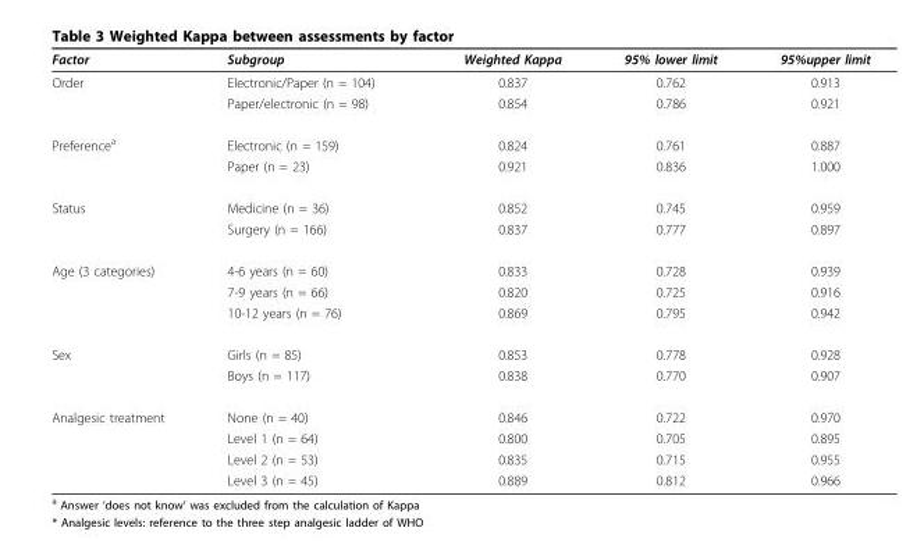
<table><thead><tr><td>Factor</td><td>Subgroup</td><td>Weighted Kappa</td><td>95% lower limit</td><td>95%upper limit</td></tr></thead><tbody><tr><td rowspan="2">Order</td><td>Electronic/Paper (n = 104)</td><td>0.837</td><td>0.762</td><td>0.913</td></tr><tr><td>Paper/electronic (n = 98)</td><td>0.854</td><td>0.786</td><td>0.921</td></tr><tr><td rowspan="2">Preference<sup>a</sup></td><td>Electronic (n = 159)</td><td>0.824</td><td>0.761</td><td>0.887</td></tr><tr><td>Paper (n = 23)</td><td>0.921</td><td>0.836</td><td>1.000</td></tr><tr><td rowspan="2">Status</td><td>Medicine (n = 36)</td><td>0.852</td><td>0.745</td><td>0.959</td></tr><tr><td>Surgery (n = 166)</td><td>0.837</td><td>0.777</td><td>0.897</td></tr><tr><td rowspan="3">Age (3 categories)</td><td>4-6 years (n = 60)</td><td>0.833</td><td>0.728</td><td>0.939</td></tr><tr><td>7-9 years (n = 66)</td><td>0.820</td><td>0.725</td><td>0.916</td></tr><tr><td>10-12 years (n = 76)</td><td>0.869</td><td>0.795</td><td>0.942</td></tr><tr><td rowspan="2">Sex</td><td>Girls (n = 85)</td><td>0.853</td><td>0.778</td><td>0.928</td></tr><tr><td>Boys (n = 117)</td><td>0.838</td><td>0.770</td><td>0.907</td></tr><tr><td rowspan="4">Analgesic treatment</td><td>None (n = 40)</td><td>0.846</td><td>0.722</td><td>0.970</td></tr><tr><td>Level 1 (n = 64)</td><td>0.800</td><td>0.705</td><td>0.895</td></tr><tr><td>Level 2 (n = 53)</td><td>0.835</td><td>0.715</td><td>0.955</td></tr><tr><td>Level 3 (n = 45)</td><td>0.889</td><td>0.812</td><td>0.966</td></tr></tbody></table>